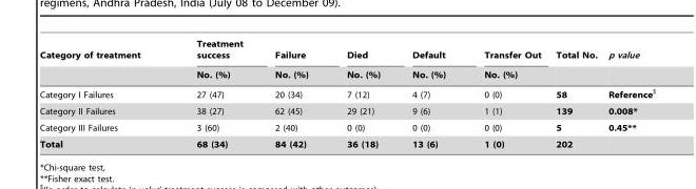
<table><thead><tr><td rowspan="2">Category of treatment</td><td rowspan="2">Treatment success No. (%)</td><td rowspan="2">Failure No. (%)</td><td rowspan="2">Died No. (%)</td><td rowspan="2">Default No. (%)</td><td rowspan="2">Transfer Out No. (%)</td><td rowspan="2">Total No.</td><td rowspan="2">p value</td></tr><tr></tr></thead><tbody><tr><td>Category I Failures</td><td>27 (47)</td><td>20 (34)</td><td>7 (12)</td><td>4 (7)</td><td>0 (0)</td><td>58</td><td>Reference$</td></tr><tr><td>Category II Failures</td><td>38 (27)</td><td>62 (45)</td><td>29 (21)</td><td>9 (6)</td><td>1 (1)</td><td>139</td><td>0.008*</td></tr><tr><td>Category III Failures</td><td>3 (60)</td><td>2 (40)</td><td>0 (0)</td><td>0 (0)</td><td>0 (0)</td><td>5</td><td>0.45**</td></tr><tr><td>Total</td><td>68 (34)</td><td>84 (42)</td><td>36 (18)</td><td>13 (6)</td><td>1 (0)</td><td>202</td><td></td></tr></tbody></table>